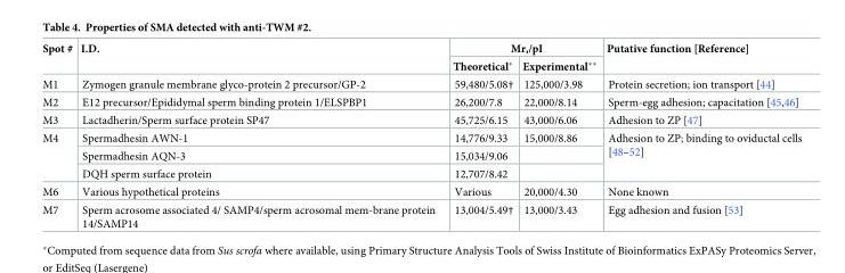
<table><thead><tr><td rowspan="2">Spot #</td><td rowspan="2">I.D.</td><td colspan="2">Mr,/pI</td><td rowspan="2">Putative function [Reference]</td></tr><tr><td>Theoretical*</td><td>Experimental**</td></tr></thead><tbody><tr><td>M1</td><td>Zymogen granule membrane glyco-protein 2 precursor/GP-2</td><td>59,480/5.08†</td><td>125,000/3.98</td><td>Protein secretion; ion transport [44]</td></tr><tr><td>M2</td><td>E12 precursor/Epididymal sperm binding protein 1/ELSPBP1</td><td>26,200/7.8</td><td>22,000/8.14</td><td>Sperm-egg adhesion; capacitation [45,46]</td></tr><tr><td>M3</td><td>Lactadherin/Sperm surface protein SP47</td><td>45,725/6.15</td><td>43,000/6.06</td><td>Adhesion to ZP [47]</td></tr><tr><td rowspan="3">M4</td><td>Spermadhesin AWN-1</td><td>14,776/9.33</td><td>15,000/8.86</td><td rowspan="3">Adhesion to ZP; binding to oviductal cells [48–52]</td></tr><tr><td>Spermadhesin AQN-3</td><td>15,034/9.06</td><td></td></tr><tr><td>DQH sperm surface protein</td><td>12,707/8.42</td><td></td></tr><tr><td>M6</td><td>Various hypothetical proteins</td><td>Various</td><td>20,000/4.30</td><td>None known</td></tr><tr><td>M7</td><td>Sperm acrosome associated 4/ SAMP4/sperm acrosomal mem-brane protein 14/SAMP14</td><td>13,004/5.49†</td><td>13,000/3.43</td><td>Egg adhesion and fusion [53]</td></tr></tbody></table>